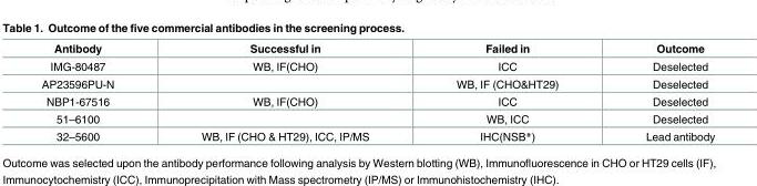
<table><thead><tr><td>Antibody</td><td>Successful in</td><td>Failed in</td><td>Outcome</td></tr></thead><tbody><tr><td>IMG-80487</td><td>WB, IF(CHO)</td><td>ICC</td><td>Deselected</td></tr><tr><td>AP23596PU-N</td><td></td><td>WB, IF (CHO&amp;HT29)</td><td>Deselected</td></tr><tr><td>NBP1-67516</td><td>WB, IF(CHO)</td><td>ICC</td><td>Deselected</td></tr><tr><td>51–6100</td><td></td><td>WB, ICC</td><td>Deselected</td></tr><tr><td>32–5600</td><td>WB, IF (CHO &amp; HT29), ICC, IP/MS</td><td>IHC(NSB*)</td><td>Lead antibody</td></tr></tbody></table>